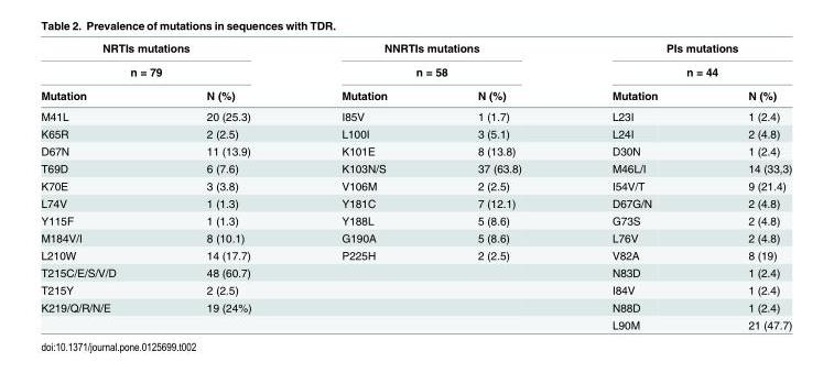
<table><thead><tr><td rowspan="2" colspan="2">NRTIs mutations n = 79</td><td rowspan="2" colspan="2">NNRTIs mutations n = 58</td><td rowspan="2" colspan="2">PIs mutations n = 44</td></tr><tr></tr><tr><td>Mutation</td><td>N (%)</td><td>Mutation</td><td>N (%)</td><td>Mutation</td><td>N (%)</td></tr></thead><tbody><tr><td>M41L</td><td>20 (25.3)</td><td>I85V</td><td>1 (1.7)</td><td>L23I</td><td>1 (2.4)</td></tr><tr><td>K65R</td><td>2 (2.5)</td><td>L100I</td><td>3 (5.1)</td><td>L24I</td><td>2 (4.8)</td></tr><tr><td>D67N</td><td>11 (13.9)</td><td>K101E</td><td>8 (13.8)</td><td>D30N</td><td>1 (2.4)</td></tr><tr><td>T69D</td><td>6 (7.6)</td><td>K103N/S</td><td>37 (63.8)</td><td>M46L/I</td><td>14 (33,3)</td></tr><tr><td>K70E</td><td>3 (3.8)</td><td>V106M</td><td>2 (2.5)</td><td>I54V/T</td><td>9 (21.4)</td></tr><tr><td>L74V</td><td>1 (1.3)</td><td>Y181C</td><td>7 (12.1)</td><td>D67G/N</td><td>2 (4.8)</td></tr><tr><td>Y115F</td><td>1 (1.3)</td><td>Y188L</td><td>5 (8.6)</td><td>G73S</td><td>2 (4.8)</td></tr><tr><td>M184V/I</td><td>8 (10.1)</td><td>G190A</td><td>5 (8.6)</td><td>L76V</td><td>2 (4.8)</td></tr><tr><td>L210W</td><td>14 (17.7)</td><td>P225H</td><td>2 (2.5)</td><td>V82A</td><td>8 (19)</td></tr><tr><td>T215C/E/S/V/D</td><td>48 (60.7)</td><td></td><td></td><td>N83D</td><td>1 (2.4)</td></tr><tr><td>T215Y</td><td>2 (2.5)</td><td></td><td></td><td>I84V</td><td>1 (2.4)</td></tr><tr><td rowspan="2">K219/Q/R/N/E</td><td>19 (24%)</td><td></td><td></td><td>N88D</td><td>1 (2.4)</td></tr><tr><td></td><td></td><td></td><td>L90M</td><td>21 (47.7)</td></tr></tbody></table>